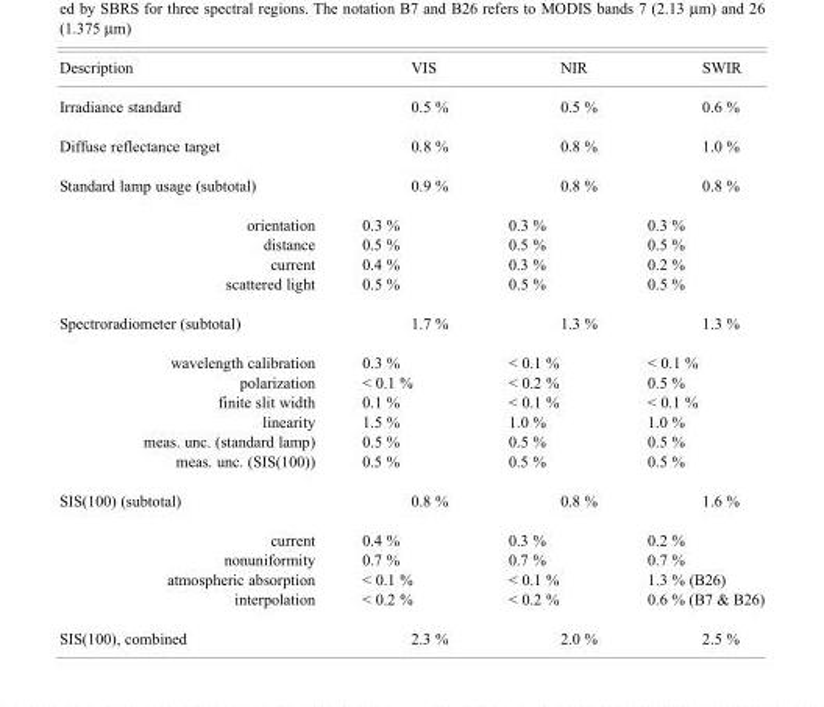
<table><thead><tr><td>Description</td><td>VIS</td><td>NIR</td><td>SWIR</td></tr></thead><tbody><tr><td>Irradiance standard</td><td>0.5 %</td><td>0.5 %</td><td>0.6 %</td></tr><tr><td>Diffuse reflectance target</td><td>0.8 %</td><td>0.8 %</td><td>1.0 %</td></tr><tr><td>Standard lamp usage (subtotal)</td><td>0.9 %</td><td>0.8 %</td><td>0.8 %</td></tr><tr><td>orientation</td><td>0.3 %</td><td>0.3 %</td><td>0.3 %</td></tr><tr><td>distance</td><td>0.5 %</td><td>0.5 %</td><td>0.5 %</td></tr><tr><td>current</td><td>0.4 %</td><td>0.3 %</td><td>0.2 %</td></tr><tr><td>scattered light</td><td>0.5 %</td><td>0.5 %</td><td>0.5 %</td></tr><tr><td>Spectroradiometer (subtotal)</td><td>1.7 %</td><td>1.3 %</td><td>1.3 %</td></tr><tr><td>wavelength calibration</td><td>0.3 %</td><td>&lt; 0.1 %</td><td>&lt; 0.1 %</td></tr><tr><td>polarization</td><td>&lt; 0.1 %</td><td>&lt; 0.2 %</td><td>0.5 %</td></tr><tr><td>finite slit width</td><td>0.1 %</td><td>&lt; 0.1 %</td><td>&lt; 0.1 %</td></tr><tr><td>linearity</td><td>1.5 %</td><td>1.0 %</td><td>1.0 %</td></tr><tr><td>meas. unc. (standard lamp)</td><td>0.5 %</td><td>0.5 %</td><td>0.5 %</td></tr><tr><td>meas. unc. (SIS(100))</td><td>0.5 %</td><td>0.5 %</td><td>0.5 %</td></tr><tr><td>SIS(100) (subtotal)</td><td>0.8 %</td><td>0.8 %</td><td>1.6 %</td></tr><tr><td>current</td><td>0.4 %</td><td>0.3 %</td><td>0.2 %</td></tr><tr><td>nonuniformity</td><td>0.7 %</td><td>0.7 %</td><td>0.7 %</td></tr><tr><td>atmospheric absorption</td><td>&lt; 0.1 %</td><td>&lt; 0.1 %</td><td>1.3 % (B26)</td></tr><tr><td>interpolation</td><td>&lt; 0.2 %</td><td>&lt; 0.2 %</td><td>0.6 % (B7 &amp; B26)</td></tr><tr><td>SIS(100), combined</td><td>2.3 %</td><td>2.0 %</td><td>2.5 %</td></tr></tbody></table>